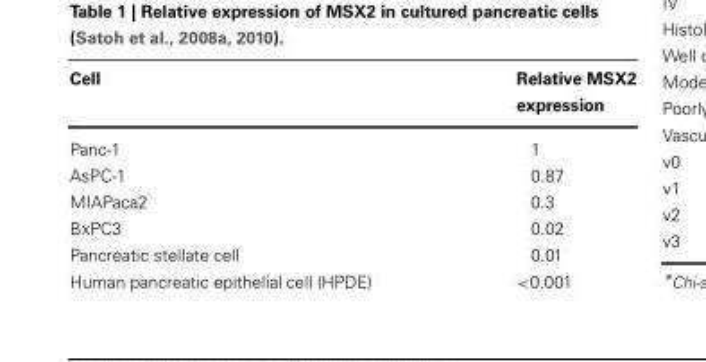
<table><thead><tr><td>Cell</td><td>Relative MSX2 expression</td></tr></thead><tbody><tr><td>Panc-1</td><td>1</td></tr><tr><td>AsPC-1</td><td>0.87</td></tr><tr><td>MIAPaca2</td><td>0.3</td></tr><tr><td>BxPC3</td><td>0.02</td></tr><tr><td>Pancreatic stellate cell</td><td>0.01</td></tr><tr><td>Human pancreatic epithelial cell (HPDE)</td><td>&lt;0.001</td></tr></tbody></table>